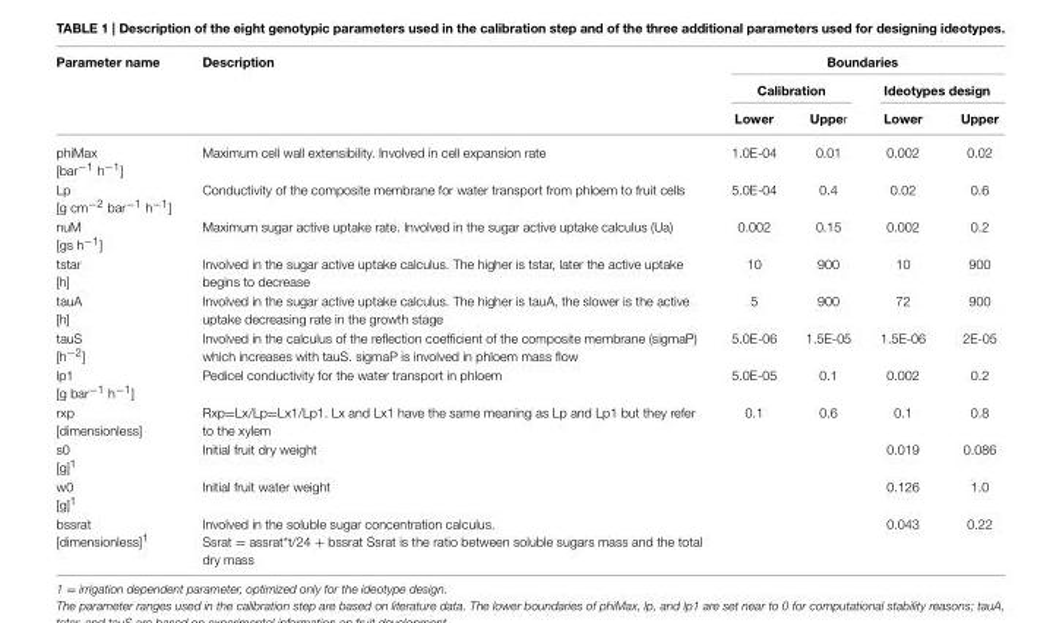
<table><thead><tr><td rowspan="3">Parameter name</td><td rowspan="3">Description</td><td colspan="4">Boundaries</td></tr><tr><td colspan="2">Calibration</td><td colspan="2">Ideotypes design</td></tr><tr><td>Lower</td><td>Upper</td><td>Lower</td><td>Upper</td></tr></thead><tbody><tr><td>phiMax [bar<sup>−1</sup> h<sup>−1</sup>]</td><td>Maximum cell wall extensibility. Involved in cell expansion rate</td><td>1.0E-04</td><td>0.01</td><td>0.002</td><td>0.02</td></tr><tr><td>Lp [g cm<sup>−2</sup> bar<sup>−1</sup> h<sup>−1</sup>]</td><td>Conductivity of the composite membrane for water transport from phloem to fruit cells</td><td>5.0E-04</td><td>0.4</td><td>0.02</td><td>0.6</td></tr><tr><td>nuM [gs h<sup>−1</sup>]</td><td>Maximum sugar active uptake rate. Involved in the sugar active uptake calculus (Ua)</td><td>0.002</td><td>0.15</td><td>0.002</td><td>0.2</td></tr><tr><td>tstar [h]</td><td>Involved in the sugar active uptake calculus. The higher is tstar, later the active uptake begins to decrease</td><td>10</td><td>900</td><td>10</td><td>900</td></tr><tr><td>tauA [h]</td><td>Involved in the sugar active uptake calculus. The higher is tauA, the slower is the active uptake decreasing rate in the growth stage</td><td>5</td><td>900</td><td>72</td><td>900</td></tr><tr><td>tauS [h<sup>−2</sup>]</td><td>Involved in the calculus of the reflection coefficient of the composite membrane (sigmaP) which increases with tauS. sigmaP is involved in phloem mass flow</td><td>5.0E-06</td><td>1.5E-05</td><td>1.5E-06</td><td>2E-05</td></tr><tr><td>lp1 [g bar<sup>−1</sup> h<sup>−1</sup>]</td><td>Pedicel conductivity for the water transport in phloem</td><td>5.0E-05</td><td>0.1</td><td>0.002</td><td>0.2</td></tr><tr><td>rxp [dimensionless]</td><td>Rxp=Lx/Lp=Lx1/Lp1. Lx and Lx1 have the same meaning as Lp and Lp1 but they refer to the xylem</td><td>0.1</td><td>0.6</td><td>0.1</td><td>0.8</td></tr><tr><td>s0 [g]<sup>1</sup></td><td>Initial fruit dry weight</td><td></td><td></td><td>0.019</td><td>0.086</td></tr><tr><td>w0 [g]<sup>1</sup></td><td>Initial fruit water weight</td><td></td><td></td><td>0.126</td><td>1.0</td></tr><tr><td>bssrat [dimensionless]<sup>1</sup></td><td>Involved in the soluble sugar concentration calculus. Ssrat = assrat*t/24 + bssrat Ssrat is the ratio between soluble sugars mass and the total dry mass</td><td></td><td></td><td>0.043</td><td>0.22</td></tr></tbody></table>